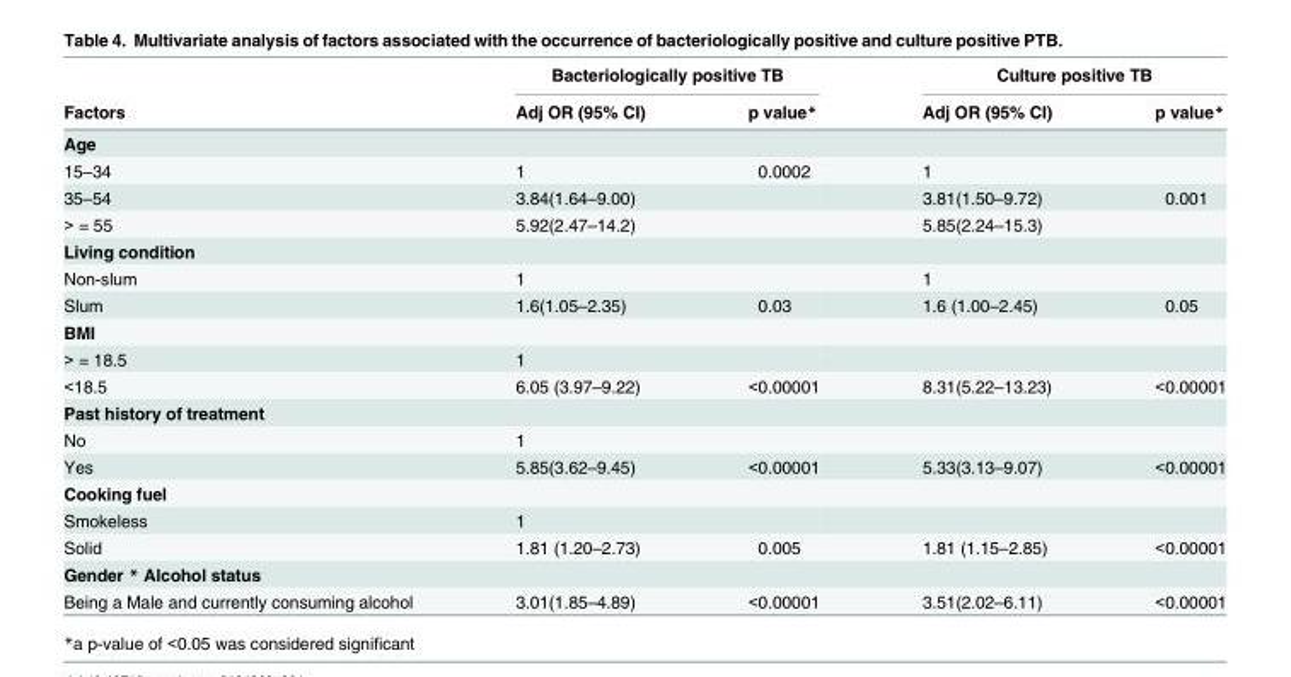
<table><thead><tr><td rowspan="2">Factors</td><td colspan="2">Bacteriologically positive TB</td><td colspan="2">Culture positive TB</td></tr><tr><td>Adj OR (95% CI)</td><td>p value*</td><td>Adj OR (95% CI)</td><td>p value*</td></tr></thead><tbody><tr><td colspan="5">Age</td></tr><tr><td>15–34</td><td>1</td><td>0.0002</td><td>1</td><td></td></tr><tr><td>35–54</td><td>3.84(1.64–9.00)</td><td></td><td>3.81(1.50–9.72)</td><td>0.001</td></tr><tr><td>&gt; = 55</td><td>5.92(2.47–14.2)</td><td></td><td>5.85(2.24–15.3)</td><td></td></tr><tr><td colspan="5">Living condition</td></tr><tr><td>Non-slum</td><td>1</td><td></td><td>1</td><td></td></tr><tr><td>Slum</td><td>1.6(1.05–2.35)</td><td>0.03</td><td>1.6 (1.00–2.45)</td><td>0.05</td></tr><tr><td colspan="5">BMI</td></tr><tr><td>&gt; = 18.5</td><td>1</td><td></td><td></td><td></td></tr><tr><td>&lt;18.5</td><td>6.05 (3.97–9.22)</td><td>&lt;0.00001</td><td>8.31(5.22–13.23)</td><td>&lt;0.00001</td></tr><tr><td colspan="5">Past history of treatment</td></tr><tr><td>No</td><td>1</td><td></td><td></td><td></td></tr><tr><td>Yes</td><td>5.85(3.62–9.45)</td><td>&lt;0.00001</td><td>5.33(3.13–9.07)</td><td>&lt;0.00001</td></tr><tr><td colspan="5">Cooking fuel</td></tr><tr><td>Smokeless</td><td>1</td><td></td><td></td><td></td></tr><tr><td>Solid</td><td>1.81 (1.20–2.73)</td><td>0.005</td><td>1.81 (1.15–2.85)</td><td>&lt;0.00001</td></tr><tr><td colspan="5">Gender * Alcohol status</td></tr><tr><td>Being a Male and currently consuming alcohol</td><td>3.01(1.85–4.89)</td><td>&lt;0.00001</td><td>3.51(2.02–6.11)</td><td>&lt;0.00001</td></tr></tbody></table>